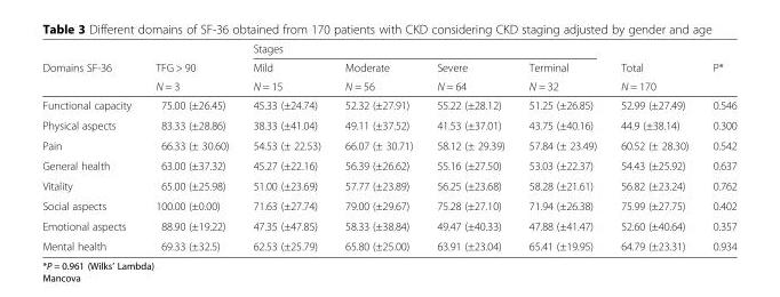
<table><thead><tr><td rowspan="3">Domains SF-36</td><td rowspan="3">TFG &gt; 90 N = 3</td><td colspan="4">Stages</td><td rowspan="3">Total N = 170</td><td rowspan="3">P*</td></tr><tr><td rowspan="2">Mild N = 15</td><td rowspan="2">Moderate N = 56</td><td rowspan="2">Severe N = 64</td><td rowspan="2">Terminal N = 32</td></tr><tr></tr></thead><tbody><tr><td>Functional capacity</td><td>75.00 (±26.45)</td><td>45.33 (±24.74)</td><td>52.32 (±27.91)</td><td>55.22 (±28.12)</td><td>51.25 (±26.85)</td><td>52.99 (±27.49)</td><td>0.546</td></tr><tr><td>Physical aspects</td><td>83.33 (±28.86)</td><td>38.33 (±41.04)</td><td>49.11 (±37.52)</td><td>41.53 (±37.01)</td><td>43.75 (±40.16)</td><td>44.9 (±38.14)</td><td>0.300</td></tr><tr><td>Pain</td><td>66.33 (± 30.60)</td><td>54.53 (± 22.53)</td><td>66.07 (± 30.71)</td><td>58.12 (± 29.39)</td><td>57.84 (± 23.49)</td><td>60.52 (± 28.30)</td><td>0.542</td></tr><tr><td>General health</td><td>63.00 (±37.32)</td><td>45.27 (±22.16)</td><td>56.39 (±26.62)</td><td>55.16 (±27.50)</td><td>53.03 (±22.37)</td><td>54.43 (±25.92)</td><td>0.637</td></tr><tr><td>Vitality</td><td>65.00 (±25.98)</td><td>51.00 (±23.69)</td><td>57.77 (±23.89)</td><td>56.25 (±23.68)</td><td>58.28 (±21.61)</td><td>56.82 (±23.24)</td><td>0.762</td></tr><tr><td>Social aspects</td><td>100.00 (±0.00)</td><td>71.63 (±27.74)</td><td>79.00 (±29.67)</td><td>75.28 (±27.10)</td><td>71.94 (±26.38)</td><td>75.99 (±27.75)</td><td>0.402</td></tr><tr><td>Emotional aspects</td><td>88.90 (±19.22)</td><td>47.35 (±47.85)</td><td>58.33 (±38.84)</td><td>49.47 (±40.33)</td><td>47.88 (±41.47)</td><td>52.60 (±40.64)</td><td>0.357</td></tr><tr><td>Mental health</td><td>69.33 (±32.5)</td><td>62.53 (±25.79)</td><td>65.80 (±25.00)</td><td>63.91 (±23.04)</td><td>65.41 (±19.95)</td><td>64.79 (±23.31)</td><td>0.934</td></tr></tbody></table>